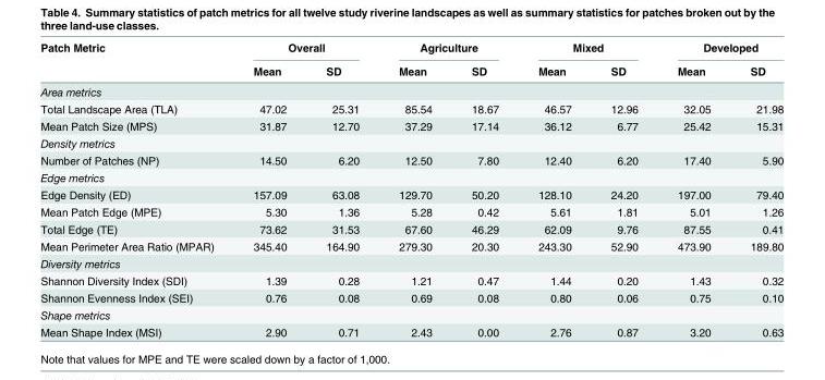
<table><thead><tr><td rowspan="2">Patch Metric</td><td colspan="2">Overall</td><td colspan="2">Agriculture</td><td colspan="2">Mixed</td><td colspan="2">Developed</td></tr><tr><td>Mean</td><td>SD</td><td>Mean</td><td>SD</td><td>Mean</td><td>SD</td><td>Mean</td><td>SD</td></tr></thead><tbody><tr><td colspan="9">Area metrics</td></tr><tr><td>Total Landscape Area (TLA)</td><td>47.02</td><td>25.31</td><td>85.54</td><td>18.67</td><td>46.57</td><td>12.96</td><td>32.05</td><td>21.98</td></tr><tr><td>Mean Patch Size (MPS)</td><td>31.87</td><td>12.70</td><td>37.29</td><td>17.14</td><td>36.12</td><td>6.77</td><td>25.42</td><td>15.31</td></tr><tr><td colspan="9">Density metrics</td></tr><tr><td>Number of Patches (NP)</td><td>14.50</td><td>6.20</td><td>12.50</td><td>7.80</td><td>12.40</td><td>6.20</td><td>17.40</td><td>5.90</td></tr><tr><td colspan="9">Edge metrics</td></tr><tr><td>Edge Density (ED)</td><td>157.09</td><td>63.08</td><td>129.70</td><td>50.20</td><td>128.10</td><td>24.20</td><td>197.00</td><td>79.40</td></tr><tr><td>Mean Patch Edge (MPE)</td><td>5.30</td><td>1.36</td><td>5.28</td><td>0.42</td><td>5.61</td><td>1.81</td><td>5.01</td><td>1.26</td></tr><tr><td>Total Edge (TE)</td><td>73.62</td><td>31.53</td><td>67.60</td><td>46.29</td><td>62.09</td><td>9.76</td><td>87.55</td><td>0.41</td></tr><tr><td>Mean Perimeter Area Ratio (MPAR)</td><td>345.40</td><td>164.90</td><td>279.30</td><td>20.30</td><td>243.30</td><td>52.90</td><td>473.90</td><td>189.80</td></tr><tr><td colspan="9">Diversity metrics</td></tr><tr><td>Shannon Diversity Index (SDI)</td><td>1.39</td><td>0.28</td><td>1.21</td><td>0.47</td><td>1.44</td><td>0.20</td><td>1.43</td><td>0.32</td></tr><tr><td>Shannon Evenness Index (SEI)</td><td>0.76</td><td>0.08</td><td>0.69</td><td>0.08</td><td>0.80</td><td>0.06</td><td>0.75</td><td>0.10</td></tr><tr><td colspan="9">Shape metrics</td></tr><tr><td>Mean Shape Index (MSI)</td><td>2.90</td><td>0.71</td><td>2.43</td><td>0.00</td><td>2.76</td><td>0.87</td><td>3.20</td><td>0.63</td></tr></tbody></table>